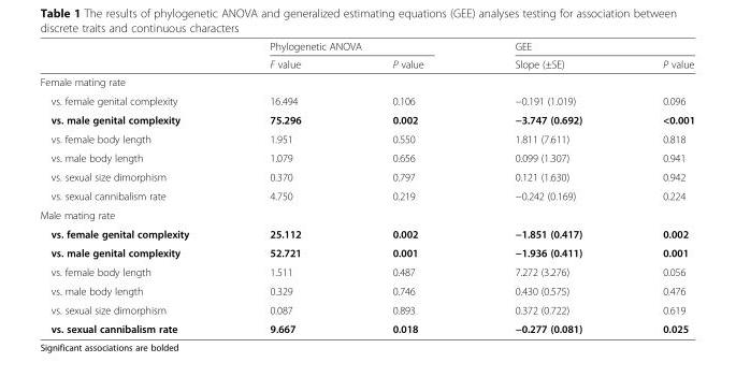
<table><thead><tr><td rowspan="2"></td><td colspan="2">Phylogenetic ANOVA</td><td colspan="2">GEE</td></tr><tr><td>F value</td><td>P value</td><td>Slope (±SE)</td><td>P value</td></tr></thead><tbody><tr><td colspan="5">Female mating rate</td></tr><tr><td>vs. female genital complexity</td><td>16.494</td><td>0.106</td><td>−0.191 (1.019)</td><td>0.096</td></tr><tr><td>vs. male genital complexity</td><td>75.296</td><td>0.002</td><td>−3.747 (0.692)</td><td>&lt;0.001</td></tr><tr><td>vs. female body length</td><td>1.951</td><td>0.550</td><td>1.811 (7.611)</td><td>0.818</td></tr><tr><td>vs. male body length</td><td>1.079</td><td>0.656</td><td>0.099 (1.307)</td><td>0.941</td></tr><tr><td>vs. sexual size dimorphism</td><td>0.370</td><td>0.797</td><td>0.121 (1.630)</td><td>0.942</td></tr><tr><td>vs. sexual cannibalism rate</td><td>4.750</td><td>0.219</td><td>−0.242 (0.169)</td><td>0.224</td></tr><tr><td colspan="5">Male mating rate</td></tr><tr><td>vs. female genital complexity</td><td>25.112</td><td>0.002</td><td>−1.851 (0.417)</td><td>0.002</td></tr><tr><td>vs. male genital complexity</td><td>52.721</td><td>0.001</td><td>−1.936 (0.411)</td><td>0.001</td></tr><tr><td>vs. female body length</td><td>1.511</td><td>0.487</td><td>7.272 (3.276)</td><td>0.056</td></tr><tr><td>vs. male body length</td><td>0.329</td><td>0.746</td><td>0.430 (0.575)</td><td>0.476</td></tr><tr><td>vs. sexual size dimorphism</td><td>0.087</td><td>0.893</td><td>0.372 (0.722)</td><td>0.619</td></tr><tr><td>vs. sexual cannibalism rate</td><td>9.667</td><td>0.018</td><td>−0.277 (0.081)</td><td>0.025</td></tr></tbody></table>